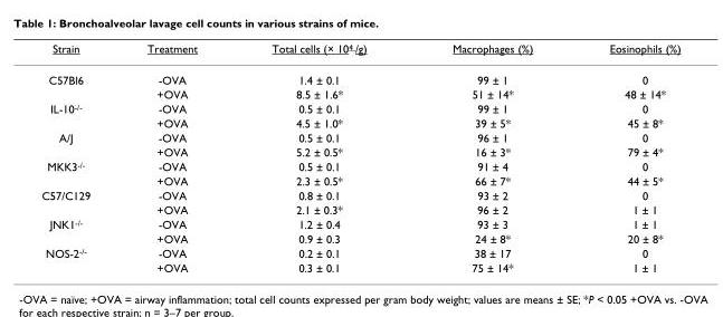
<table><thead><tr><td>Strain</td><td>Treatment</td><td>Total cells (× 10<sup>4</sup> /g)</td><td>Macrophages (%)</td><td>Eosinophils (%)</td></tr></thead><tbody><tr><td rowspan="2">C57Bl6</td><td>-OVA</td><td>1.4 ± 0.1</td><td>99 ± 1</td><td>0</td></tr><tr><td>+OVA</td><td>8.5 ± 1.6*</td><td>51 ± 14*</td><td>48 ± 14*</td></tr><tr><td rowspan="2">IL-10<sup>-/-</sup></td><td>-OVA</td><td>0.5 ± 0.1</td><td>99 ± 1</td><td>0</td></tr><tr><td>+OVA</td><td>4.5 ± 1.0*</td><td>39 ± 5*</td><td>45 ± 8*</td></tr><tr><td rowspan="2">A/J</td><td>-OVA</td><td>0.5 ± 0.1</td><td>96 ± 1</td><td>0</td></tr><tr><td>+OVA</td><td>5.2 ± 0.5*</td><td>16 ± 3*</td><td>79 ± 4*</td></tr><tr><td rowspan="2">MKK3<sup>-/-</sup></td><td>-OVA</td><td>0.5 ± 0.1</td><td>91 ± 4</td><td>0</td></tr><tr><td>+OVA</td><td>2.3 ± 0.5*</td><td>66 ± 7*</td><td>44 ± 5*</td></tr><tr><td rowspan="2">C57/C129</td><td>-OVA</td><td>0.8 ± 0.1</td><td>93 ± 2</td><td>0</td></tr><tr><td>+OVA</td><td>2.1 ± 0.3*</td><td>96 ± 2</td><td>1 ± 1</td></tr><tr><td rowspan="2">JNK1<sup>-/-</sup></td><td>-OVA</td><td>1.2 ± 0.4</td><td>93 ± 3</td><td>1 ± 1</td></tr><tr><td>+OVA</td><td>0.9 ± 0.3</td><td>24 ± 8*</td><td>20 ± 8*</td></tr><tr><td rowspan="2">NOS-2<sup>-/-</sup></td><td>-OVA</td><td>0.2 ± 0.1</td><td>38 ± 17</td><td>0</td></tr><tr><td>+OVA</td><td>0.3 ± 0.1</td><td>75 ± 14*</td><td>1 ± 1</td></tr></tbody></table>